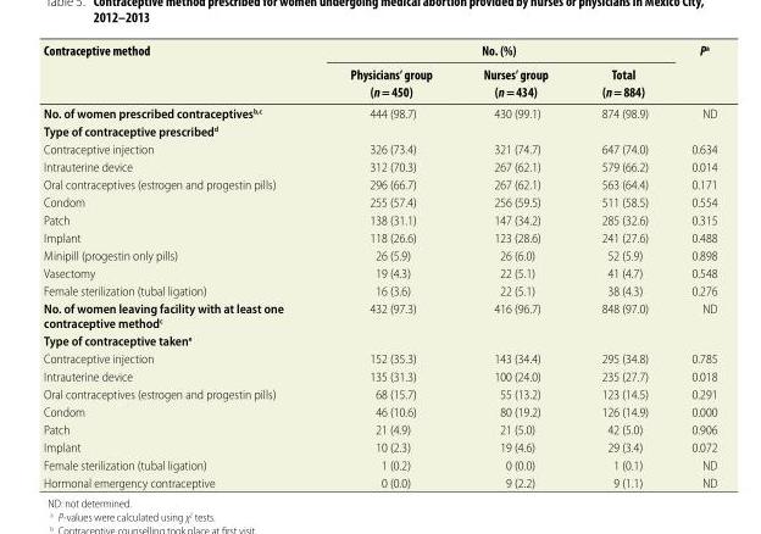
<table><thead><tr><td rowspan="2">Contraceptive method</td><td colspan="3">No. (%)</td><td rowspan="2">P<sup>a</sup></td></tr><tr><td>Physicians’ group (n = 450)</td><td>Nurses’ group (n = 434)</td><td>Total (n = 884)</td></tr></thead><tbody><tr><td>No. of women prescribed contraceptives<sup>b,c</sup></td><td>444 (98.7)</td><td>430 (99.1)</td><td>874 (98.9)</td><td>ND</td></tr><tr><td colspan="5">Type of contraceptive prescribed<sup>d</sup></td></tr><tr><td>Contraceptive injection</td><td>326 (73.4)</td><td>321 (74.7)</td><td>647 (74.0)</td><td>0.634</td></tr><tr><td>Intrauterine device</td><td>312 (70.3)</td><td>267 (62.1)</td><td>579 (66.2)</td><td>0.014</td></tr><tr><td>Oral contraceptives (estrogen and progestin pills)</td><td>296 (66.7)</td><td>267 (62.1)</td><td>563 (64.4)</td><td>0.171</td></tr><tr><td>Condom</td><td>255 (57.4)</td><td>256 (59.5)</td><td>511 (58.5)</td><td>0.554</td></tr><tr><td>Patch</td><td>138 (31.1)</td><td>147 (34.2)</td><td>285 (32.6)</td><td>0.315</td></tr><tr><td>Implant</td><td>118 (26.6)</td><td>123 (28.6)</td><td>241 (27.6)</td><td>0.488</td></tr><tr><td>Minipill (progestin only pills)</td><td>26 (5.9)</td><td>26 (6.0)</td><td>52 (5.9)</td><td>0.898</td></tr><tr><td>Vasectomy</td><td>19 (4.3)</td><td>22 (5.1)</td><td>41 (4.7)</td><td>0.548</td></tr><tr><td>Female sterilization (tubal ligation)</td><td>16 (3.6)</td><td>22 (5.1)</td><td>38 (4.3)</td><td>0.276</td></tr><tr><td>No. of women leaving facility with at least one contraceptive method<sup>c</sup></td><td>432 (97.3)</td><td>416 (96.7)</td><td>848 (97.0)</td><td>ND</td></tr><tr><td colspan="5">Type of contraceptive taken<sup>e</sup></td></tr><tr><td>Contraceptive injection</td><td>152 (35.3)</td><td>143 (34.4)</td><td>295 (34.8)</td><td>0.785</td></tr><tr><td>Intrauterine device</td><td>135 (31.3)</td><td>100 (24.0)</td><td>235 (27.7)</td><td>0.018</td></tr><tr><td>Oral contraceptives (estrogen and progestin pills)</td><td>68 (15.7)</td><td>55 (13.2)</td><td>123 (14.5)</td><td>0.291</td></tr><tr><td>Condom</td><td>46 (10.6)</td><td>80 (19.2)</td><td>126 (14.9)</td><td>0.000</td></tr><tr><td>Patch</td><td>21 (4.9)</td><td>21 (5.0)</td><td>42 (5.0)</td><td>0.906</td></tr><tr><td>Implant</td><td>10 (2.3)</td><td>19 (4.6)</td><td>29 (3.4)</td><td>0.072</td></tr><tr><td>Female sterilization (tubal ligation)</td><td>1 (0.2)</td><td>0 (0.0)</td><td>1 (0.1)</td><td>ND</td></tr><tr><td>Hormonal emergency contraceptive</td><td>0 (0.0)</td><td>9 (2.2)</td><td>9 (1.1)</td><td>ND</td></tr></tbody></table>